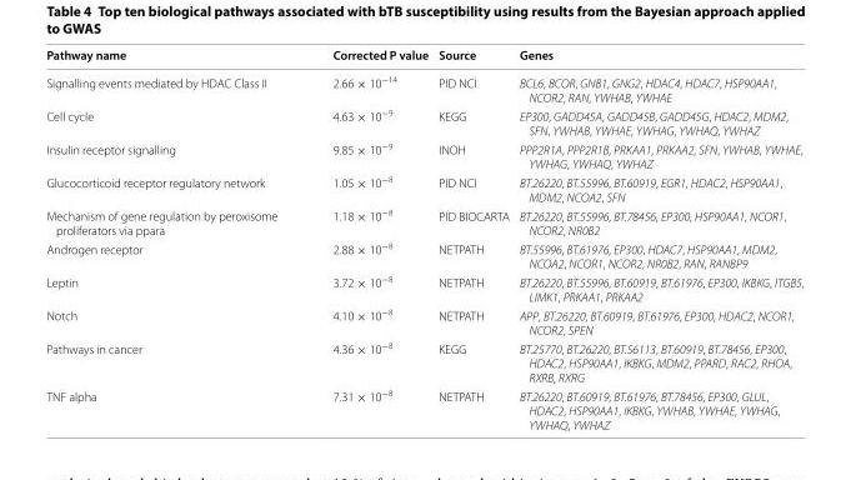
<table><thead><tr><td>Pathway name</td><td>Corrected P value</td><td>Source</td><td>Genes</td></tr></thead><tbody><tr><td>Signalling events mediated by HDAC Class II</td><td>2.66 × 10<sup>−14</sup></td><td>PID NCI</td><td>BCL6, BCOR, GNB1, GNG2, HDAC4, HDAC7, HSP90AA1, NCOR2, RAN, YWHAB, YWHAE</td></tr><tr><td>Cell cycle</td><td>4.63 × 10<sup>−9</sup></td><td>KEGG</td><td>EP300, GADD45A, GADD45B, GADD45G, HDAC2, MDM2, SFN, YWHAB, YWHAE, YWHAG, YWHAQ, YWHAZ</td></tr><tr><td>Insulin receptor signalling</td><td>9.85 × 10<sup>−9</sup></td><td>INOH</td><td>PPP2R1A, PPP2R1B, PRKAA1, PRKAA2, SFN, YWHAB, YWHAE, YWHAG, YWHAQ, YWHAZ</td></tr><tr><td>Glucocorticoid receptor regulatory network</td><td>1.05 × 10<sup>−8</sup></td><td>PID NCI</td><td>BT.26220, BT.55996, BT.60919, EGR1, HDAC2, HSP90AA1, MDM2, NCOA2, SFN</td></tr><tr><td>Mechanism of gene regulation by peroxisome proliferators via ppara</td><td>1.18 × 10<sup>−8</sup></td><td>PID BIOCARTA</td><td>BT.26220, BT.55996, BT.78456, EP300, HSP90AA1, NCOR1, NCOR2, NR0B2</td></tr><tr><td>Androgen receptor</td><td>2.88 × 10<sup>−8</sup></td><td>NETPATH</td><td>BT.55996, BT.61976, EP300, HDAC7, HSP90AA1, MDM2, NCOA2, NCOR1, NCOR2, NR0B2, RAN, RANBP9</td></tr><tr><td>Leptin</td><td>3.72 × 10<sup>−8</sup></td><td>NETPATH</td><td>BT.26220, BT.55996, BT.60919, BT.61976, EP300, IKBKG, ITGB5, LIMK1, PRKAA1, PRKAA2</td></tr><tr><td>Notch</td><td>4.10 × 10<sup>−8</sup></td><td>NETPATH</td><td>APP, BT.26220, BT.60919, BT.61976, EP300, HDAC2, NCOR1, NCOR2, SPEN</td></tr><tr><td>Pathways in cancer</td><td>4.36 × 10<sup>−8</sup></td><td>KEGG</td><td>BT.25770, BT.26220, BT.56113, BT.60919, BT.78456, EP300, HDAC2, HSP90AA1, IKBKG, MDM2, PPARD, RAC2, RHOA, RXRB, RXRG</td></tr><tr><td>TNF alpha</td><td>7.31 × 10<sup>−8</sup></td><td>NETPATH</td><td>BT.26220, BT.60919, BT.61976, BT.78456, EP300, GLUL, HDAC2, HSP90AA1, IKBKG, YWHAB, YWHAE, YWHAG, YWHAQ, YWHAZ</td></tr></tbody></table>